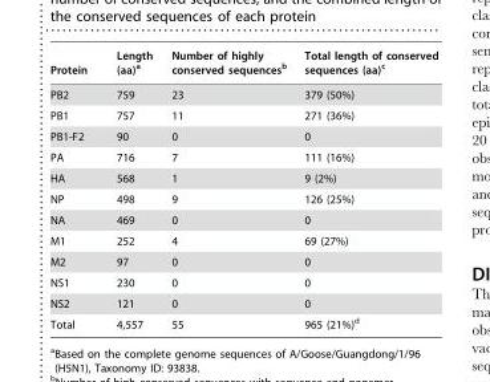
<table><thead><tr><td>Protein</td><td>Length (aa)<sup>a</sup></td><td>Number of highly conserved sequences<sup>b</sup></td><td>Total length of conserved sequences (aa)<sup>c</sup></td></tr></thead><tbody><tr><td>PB2</td><td>759</td><td>23</td><td>379 (50%)</td></tr><tr><td>PB1</td><td>757</td><td>11</td><td>271 (36%)</td></tr><tr><td>PB1-F2</td><td>90</td><td>0</td><td>0</td></tr><tr><td>PA</td><td>716</td><td>7</td><td>111 (16%)</td></tr><tr><td>HA</td><td>568</td><td>1</td><td>9 (2%)</td></tr><tr><td>NP</td><td>498</td><td>9</td><td>126 (25%)</td></tr><tr><td>NA</td><td>469</td><td>0</td><td>0</td></tr><tr><td>M1</td><td>252</td><td>4</td><td>69 (27%)</td></tr><tr><td>M2</td><td>97</td><td>0</td><td>0</td></tr><tr><td>NS1</td><td>230</td><td>0</td><td>0</td></tr><tr><td>NS2</td><td>121</td><td>0</td><td>0</td></tr><tr><td>Total</td><td>4,557</td><td>55</td><td>965 (21%)<sup>d</sup></td></tr></tbody></table>